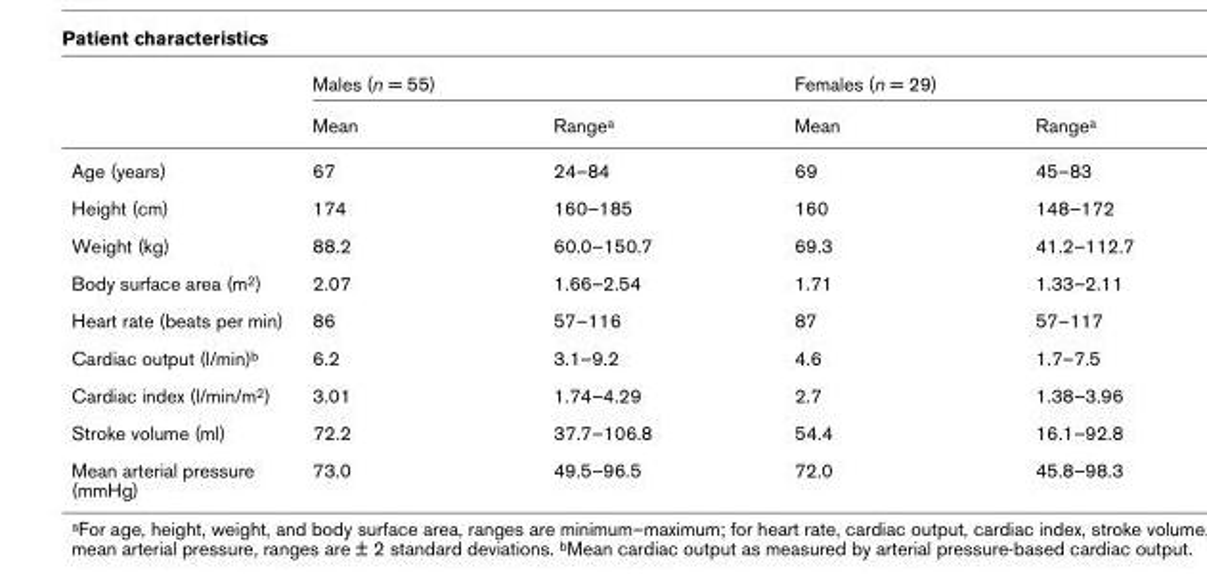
<table><thead><tr><td rowspan="2"></td><td colspan="2">Males (n = 55)</td><td colspan="2">Females (n = 29)</td></tr><tr><td>Mean</td><td>Range<sup>a</sup></td><td>Mean</td><td>Range<sup>a</sup></td></tr></thead><tbody><tr><td>Age (years)</td><td>67</td><td>24–84</td><td>69</td><td>45–83</td></tr><tr><td>Height (cm)</td><td>174</td><td>160–185</td><td>160</td><td>148–172</td></tr><tr><td>Weight (kg)</td><td>88.2</td><td>60.0–150.7</td><td>69.3</td><td>41.2–112.7</td></tr><tr><td>Body surface area (m<sup>2</sup>)</td><td>2.07</td><td>1.66–2.54</td><td>1.71</td><td>1.33–2.11</td></tr><tr><td>Heart rate (beats per min)</td><td>86</td><td>57–116</td><td>87</td><td>57–117</td></tr><tr><td>Cardiac output (l/min)<sup>b</sup></td><td>6.2</td><td>3.1–9.2</td><td>4.6</td><td>1.7–7.5</td></tr><tr><td>Cardiac index (l/min/m<sup>2</sup>)</td><td>3.01</td><td>1.74–4.29</td><td>2.7</td><td>1.38–3.96</td></tr><tr><td>Stroke volume (ml)</td><td>72.2</td><td>37.7–106.8</td><td>54.4</td><td>16.1–92.8</td></tr><tr><td>Mean arterial pressure (mmHg)</td><td>73.0</td><td>49.5–96.5</td><td>72.0</td><td>45.8–98.3</td></tr></tbody></table>